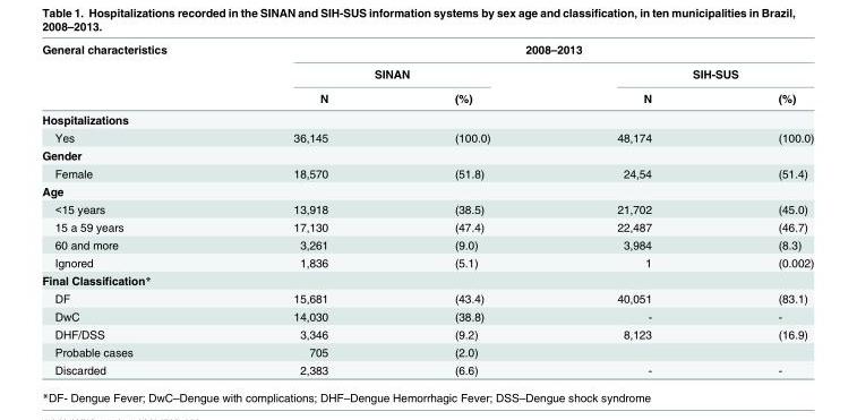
<table><thead><tr><td rowspan="3">General characteristics</td><td colspan="4">2008–2013</td></tr><tr><td colspan="2">SINAN</td><td colspan="2">SIH-SUS</td></tr><tr><td>N</td><td>(%)</td><td>N</td><td>(%)</td></tr></thead><tbody><tr><td colspan="5">Hospitalizations</td></tr><tr><td>Yes</td><td>36,145</td><td>(100.0)</td><td>48,174</td><td>(100.0)</td></tr><tr><td colspan="5">Gender</td></tr><tr><td>Female</td><td>18,570</td><td>(51.8)</td><td>24,54</td><td>(51.4)</td></tr><tr><td colspan="5">Age</td></tr><tr><td>&lt;15 years</td><td>13,918</td><td>(38.5)</td><td>21,702</td><td>(45.0)</td></tr><tr><td>15 a 59 years</td><td>17,130</td><td>(47.4)</td><td>22,487</td><td>(46.7)</td></tr><tr><td>60 and more</td><td>3,261</td><td>(9.0)</td><td>3,984</td><td>(8.3)</td></tr><tr><td>Ignored</td><td>1,836</td><td>(5.1)</td><td>1</td><td>(0.002)</td></tr><tr><td colspan="5">Final Classification*</td></tr><tr><td>DF</td><td>15,681</td><td>(43.4)</td><td>40,051</td><td>(83.1)</td></tr><tr><td>DwC</td><td>14,030</td><td>(38.8)</td><td>-</td><td>-</td></tr><tr><td>DHF/DSS</td><td>3,346</td><td>(9.2)</td><td>8,123</td><td>(16.9)</td></tr><tr><td>Probable cases</td><td>705</td><td>(2.0)</td><td></td><td></td></tr><tr><td>Discarded</td><td>2,383</td><td>(6.6)</td><td>-</td><td>-</td></tr></tbody></table>